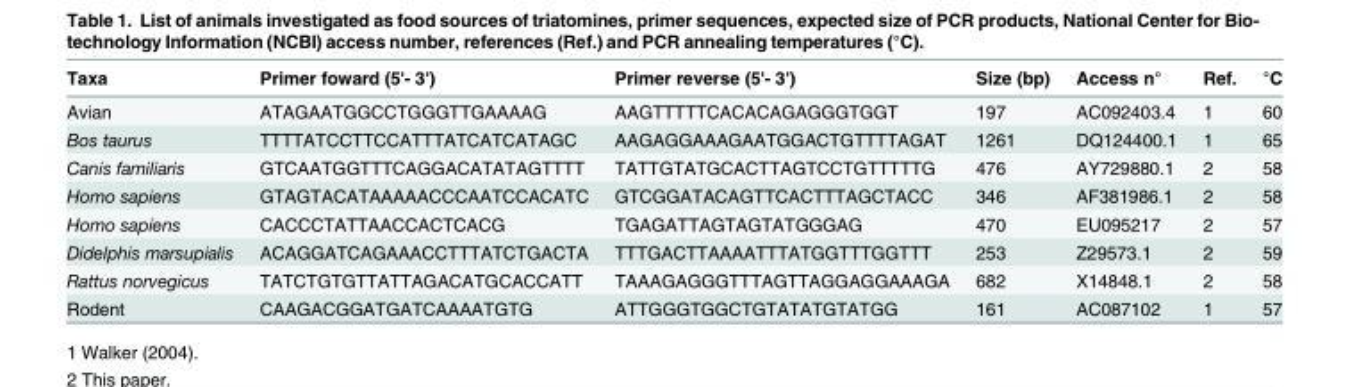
<table><thead><tr><td>Taxa</td><td>Primer foward (5&#x27;- 3&#x27;)</td><td>Primer reverse (5&#x27;- 3&#x27;)</td><td>Size (bp)</td><td>Access n°</td><td>Ref.</td><td>°C</td></tr></thead><tbody><tr><td>Avian</td><td>ATAGAATGGCCTGGGTTGAAAAG</td><td>AAGTTTTTCACACAGAGGGTGGT</td><td>197</td><td>AC092403.4</td><td>1</td><td>60</td></tr><tr><td>Bos taurus</td><td>TTTTATCCTTCCATTTATCATCATAGC</td><td>AAGAGGAAAGAATGGACTGTTTTAGAT</td><td>1261</td><td>DQ124400.1</td><td>1</td><td>65</td></tr><tr><td>Canis familiaris</td><td>GTCAATGGTTTCAGGACATATAGTTTT</td><td>TATTGTATGCACTTAGTCCTGTTTTTG</td><td>476</td><td>AY729880.1</td><td>2</td><td>58</td></tr><tr><td>Homo sapiens</td><td>GTAGTACATAAAAACCCAATCCACATC</td><td>GTCGGATACAGTTCACTTTAGCTACC</td><td>346</td><td>AF381986.1</td><td>2</td><td>58</td></tr><tr><td>Homo sapiens</td><td>CACCCTATTAACCACTCACG</td><td>TGAGATTAGTAGTATGGGAG</td><td>470</td><td>EU095217</td><td>2</td><td>57</td></tr><tr><td>Didelphis marsupialis</td><td>ACAGGATCAGAAACCTTTATCTGACTA</td><td>TTTGACTTAAAATTTATGGTTTGGTTT</td><td>253</td><td>Z29573.1</td><td>2</td><td>59</td></tr><tr><td>Rattus norvegicus</td><td>TATCTGTGTTATTAGACATGCACCATT</td><td>TAAAGAGGGTTTAGTTAGGAGGAAAGA</td><td>682</td><td>X14848.1</td><td>2</td><td>58</td></tr><tr><td>Rodent</td><td>CAAGACGGATGATCAAAATGTG</td><td>ATTGGGTGGCTGTATATGTATGG</td><td>161</td><td>AC087102</td><td>1</td><td>57</td></tr></tbody></table>